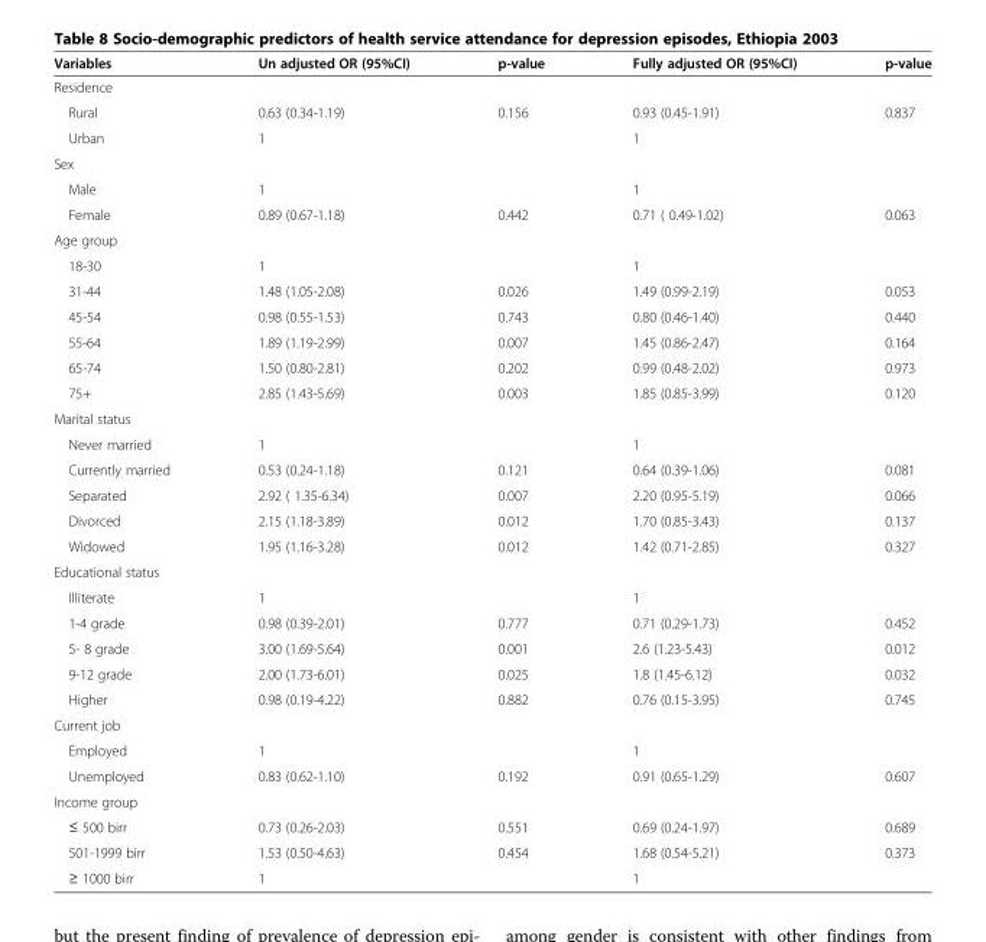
<table><thead><tr><td>Variables</td><td>Un adjusted OR (95%CI)</td><td>p-value</td><td>Fully adjusted OR (95%CI)</td><td>p-value</td></tr></thead><tbody><tr><td colspan="5">Residence</td></tr><tr><td>Rural</td><td>0.63 (0.34-1.19)</td><td>0.156</td><td>0.93 (0.45-1.91)</td><td>0.837</td></tr><tr><td>Urban</td><td>1</td><td></td><td>1</td><td></td></tr><tr><td colspan="5">Sex</td></tr><tr><td>Male</td><td>1</td><td></td><td>1</td><td></td></tr><tr><td>Female</td><td>0.89 (0.67-1.18)</td><td>0.442</td><td>0.71 ( 0.49-1.02)</td><td>0.063</td></tr><tr><td colspan="5">Age group</td></tr><tr><td>18-30</td><td>1</td><td></td><td>1</td><td></td></tr><tr><td>31-44</td><td>1.48 (1.05-2.08)</td><td>0.026</td><td>1.49 (0.99-2.19)</td><td>0.053</td></tr><tr><td>45-54</td><td>0.98 (0.55-1.53)</td><td>0.743</td><td>0.80 (0.46-1.40)</td><td>0.440</td></tr><tr><td>55-64</td><td>1.89 (1.19-2.99)</td><td>0.007</td><td>1.45 (0.86-2.47)</td><td>0.164</td></tr><tr><td>65-74</td><td>1.50 (0.80-2.81)</td><td>0.202</td><td>0.99 (0.48-2.02)</td><td>0.973</td></tr><tr><td>75+</td><td>2.85 (1.43-5.69)</td><td>0.003</td><td>1.85 (0.85-3.99)</td><td>0.120</td></tr><tr><td colspan="5">Marital status</td></tr><tr><td>Never married</td><td>1</td><td></td><td>1</td><td></td></tr><tr><td>Currently married</td><td>0.53 (0.24-1.18)</td><td>0.121</td><td>0.64 (0.39-1.06)</td><td>0.081</td></tr><tr><td>Separated</td><td>2.92 ( 1.35-6.34)</td><td>0.007</td><td>2.20 (0.95-5.19)</td><td>0.066</td></tr><tr><td>Divorced</td><td>2.15 (1.18-3.89)</td><td>0.012</td><td>1.70 (0.85-3.43)</td><td>0.137</td></tr><tr><td>Widowed</td><td>1.95 (1.16-3.28)</td><td>0.012</td><td>1.42 (0.71-2.85)</td><td>0.327</td></tr><tr><td colspan="5">Educational status</td></tr><tr><td>Illiterate</td><td>1</td><td></td><td>1</td><td></td></tr><tr><td>1-4 grade</td><td>0.98 (0.39-2.01)</td><td>0.777</td><td>0.71 (0.29-1.73)</td><td>0.452</td></tr><tr><td>5- 8 grade</td><td>3.00 (1.69-5.64)</td><td>0.001</td><td>2.6 (1.23-5.43)</td><td>0.012</td></tr><tr><td>9-12 grade</td><td>2.00 (1.73-6.01)</td><td>0.025</td><td>1.8 (1.45-6.12)</td><td>0.032</td></tr><tr><td>Higher</td><td>0.98 (0.19-4.22)</td><td>0.882</td><td>0.76 (0.15-3.95)</td><td>0.745</td></tr><tr><td colspan="5">Current job</td></tr><tr><td>Employed</td><td>1</td><td></td><td>1</td><td></td></tr><tr><td>Unemployed</td><td>0.83 (0.62-1.10)</td><td>0.192</td><td>0.91 (0.65-1.29)</td><td>0.607</td></tr><tr><td colspan="5">Income group</td></tr><tr><td>≤ 500 birr</td><td>0.73 (0.26-2.03)</td><td>0.551</td><td>0.69 (0.24-1.97)</td><td>0.689</td></tr><tr><td>501-1999 birr</td><td>1.53 (0.50-4.63)</td><td>0.454</td><td>1.68 (0.54-5.21)</td><td>0.373</td></tr><tr><td>≥ 1000 birr</td><td>1</td><td></td><td>1</td><td></td></tr></tbody></table>